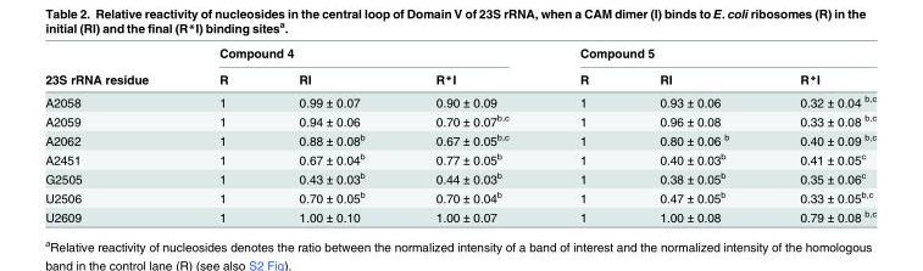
<table><thead><tr><td rowspan="2">23S rRNA residue</td><td colspan="3">Compound 4</td><td colspan="3">Compound 5</td></tr><tr><td>R</td><td>RI</td><td>R*I</td><td>R</td><td>RI</td><td>R*I</td></tr></thead><tbody><tr><td>A2058</td><td>1</td><td>0.99 ± 0.07</td><td>0.90 ± 0.09</td><td>1</td><td>0.93 ± 0.06</td><td>0.32 ± 0.04 <sup>b,c</sup></td></tr><tr><td>A2059</td><td>1</td><td>0.94 ± 0.06</td><td>0.70 ± 0.07<sup>b,c</sup></td><td>1</td><td>0.96 ± 0.08</td><td>0.33 ± 0.08 <sup>b,c</sup></td></tr><tr><td>A2062</td><td>1</td><td>0.88 ± 0.08<sup>b</sup></td><td>0.67 ± 0.05<sup>b,c</sup></td><td>1</td><td>0.80 ± 0.06 <sup>b</sup></td><td>0.40 ± 0.09 <sup>b,c</sup></td></tr><tr><td>A2451</td><td>1</td><td>0.67 ± 0.04<sup>b</sup></td><td>0.77 ± 0.05<sup>b</sup></td><td>1</td><td>0.40 ± 0.03<sup>b</sup></td><td>0.41 ± 0.05<sup>c</sup></td></tr><tr><td>G2505</td><td>1</td><td>0.43 ± 0.03<sup>b</sup></td><td>0.44 ± 0.03<sup>b</sup></td><td>1</td><td>0.38 ± 0.05<sup>b</sup></td><td>0.35 ± 0.06<sup>c</sup></td></tr><tr><td>U2506</td><td>1</td><td>0.70 ± 0.05<sup>b</sup></td><td>0.70 ± 0.04<sup>b</sup></td><td>1</td><td>0.47 ± 0.05<sup>b</sup></td><td>0.33 ± 0.05<sup>b,c</sup></td></tr><tr><td>U2609</td><td>1</td><td>1.00 ± 0.10</td><td>1.00 ± 0.07</td><td>1</td><td>1.00 ± 0.08</td><td>0.79 ± 0.08 <sup>b,c</sup></td></tr></tbody></table>